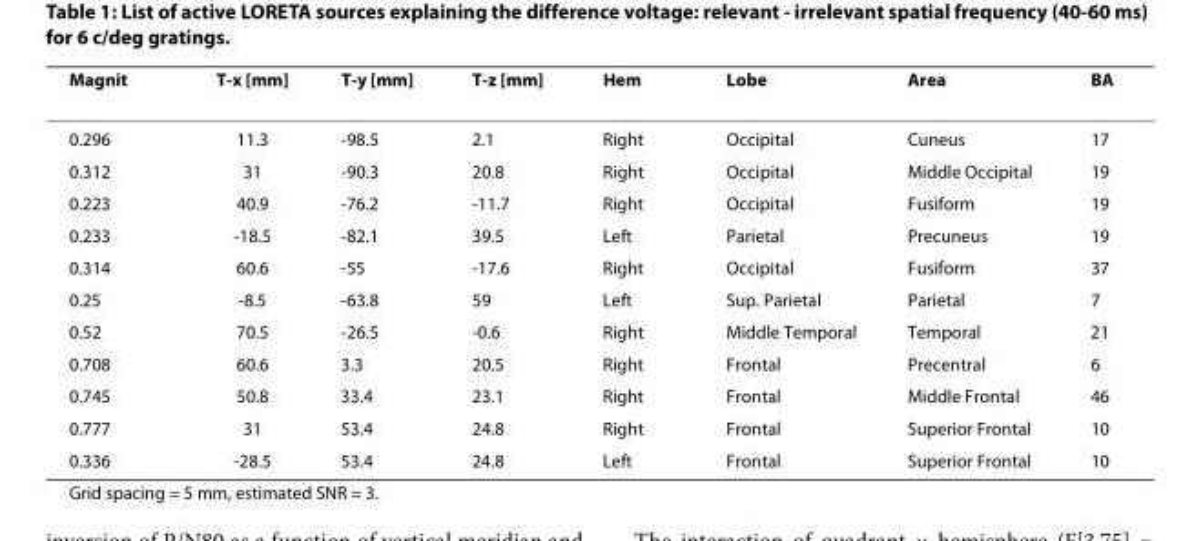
<table><thead><tr><td>Magnit</td><td>T-x [mm]</td><td>T-y [mm]</td><td>T-z [mm]</td><td>Hem</td><td>Lobe</td><td>Area</td><td>BA</td></tr></thead><tbody><tr><td>0.296</td><td>11.3</td><td>-98.5</td><td>2.1</td><td>Right</td><td>Occipital</td><td>Cuneus</td><td>17</td></tr><tr><td>0.312</td><td>31</td><td>-90.3</td><td>20.8</td><td>Right</td><td>Occipital</td><td>Middle Occipital</td><td>19</td></tr><tr><td>0.223</td><td>40.9</td><td>-76.2</td><td>-11.7</td><td>Right</td><td>Occipital</td><td>Fusiform</td><td>19</td></tr><tr><td>0.233</td><td>-18.5</td><td>-82.1</td><td>39.5</td><td>Left</td><td>Parietal</td><td>Precuneus</td><td>19</td></tr><tr><td>0.314</td><td>60.6</td><td>-55</td><td>-17.6</td><td>Right</td><td>Occipital</td><td>Fusiform</td><td>37</td></tr><tr><td>0.25</td><td>-8.5</td><td>-63.8</td><td>59</td><td>Left</td><td>Sup. Parietal</td><td>Parietal</td><td>7</td></tr><tr><td>0.52</td><td>70.5</td><td>-26.5</td><td>-0.6</td><td>Right</td><td>Middle Temporal</td><td>Temporal</td><td>21</td></tr><tr><td>0.708</td><td>60.6</td><td>3.3</td><td>20.5</td><td>Right</td><td>Frontal</td><td>Precentral</td><td>6</td></tr><tr><td>0.745</td><td>50.8</td><td>33.4</td><td>23.1</td><td>Right</td><td>Frontal</td><td>Middle Frontal</td><td>46</td></tr><tr><td>0.777</td><td>31</td><td>53.4</td><td>24.8</td><td>Right</td><td>Frontal</td><td>Superior Frontal</td><td>10</td></tr><tr><td>0.336</td><td>-28.5</td><td>53.4</td><td>24.8</td><td>Left</td><td>Frontal</td><td>Superior Frontal</td><td>10</td></tr></tbody></table>